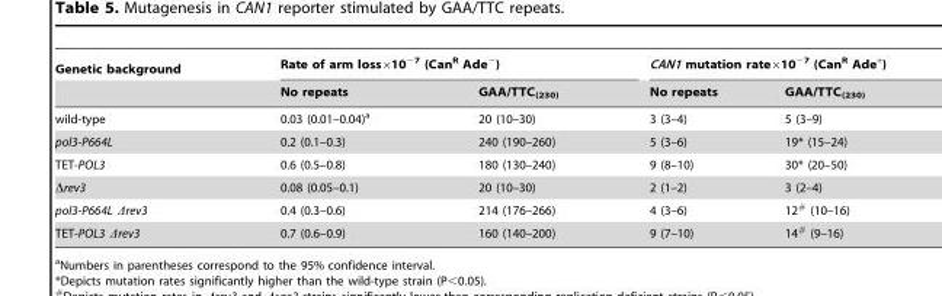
<table><thead><tr><td rowspan="2">Genetic background</td><td colspan="2">Rate of arm loss×10<sup>−7</sup> (Can<sup>R</sup> Ade<sup>−</sup>)</td><td colspan="2">CAN1 mutation rate×10<sup>−7</sup> (Can<sup>R</sup> Ade<sup>+</sup>)</td></tr><tr><td>No repeats</td><td>GAA/TTC<sub>(230)</sub></td><td>No repeats</td><td>GAA/TTC<sub>(230)</sub></td></tr></thead><tbody><tr><td>wild-type</td><td>0.03 (0.01–0.04)<sup>a</sup></td><td>20 (10–30)</td><td>3 (3–4)</td><td>5 (3–9)</td></tr><tr><td>pol3-P664L</td><td>0.2 (0.1–0.3)</td><td>240 (190–260)</td><td>5 (3–6)</td><td>19* (15–24)</td></tr><tr><td>TET-POL3</td><td>0.6 (0.5–0.8)</td><td>180 (130–240)</td><td>9 (8–10)</td><td>30* (20–50)</td></tr><tr><td>Δrev3</td><td>0.08 (0.05–0.1)</td><td>20 (10–30)</td><td>2 (1–2)</td><td>3 (2–4)</td></tr><tr><td>pol3-P664L Δrev3</td><td>0.4 (0.3–0.6)</td><td>214 (176–266)</td><td>4 (3–6)</td><td>12# (10–16)</td></tr><tr><td>TET-POL3 Δrev3</td><td>0.7 (0.6–0.9)</td><td>160 (140–200)</td><td>9 (7–10)</td><td>14# (9–16)</td></tr></tbody></table>